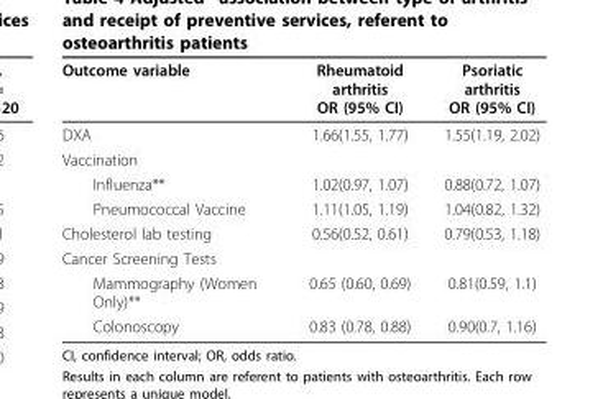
<table><thead><tr><td>Outcome variable</td><td>Rheumatoid arthritis OR (95% CI)</td><td>Psoriatic arthritis OR (95% CI)</td></tr></thead><tbody><tr><td>DXA</td><td>1.66(1.55, 1.77)</td><td>1.55(1.19, 2.02)</td></tr><tr><td colspan="3">Vaccination</td></tr><tr><td>Influenza**</td><td>1.02(0.97, 1.07)</td><td>0.88(0.72, 1.07)</td></tr><tr><td>Pneumococcal Vaccine</td><td>1.11(1.05, 1.19)</td><td>1.04(0.82, 1.32)</td></tr><tr><td>Cholesterol lab testing</td><td>0.56(0.52, 0.61)</td><td>0.79(0.53, 1.18)</td></tr><tr><td colspan="3">Cancer Screening Tests</td></tr><tr><td>Mammography (Women Only)**</td><td>0.65 (0.60, 0.69)</td><td>0.81(0.59, 1.1)</td></tr><tr><td>Colonoscopy</td><td>0.83 (0.78, 0.88)</td><td>0.90(0.7, 1.16)</td></tr></tbody></table>